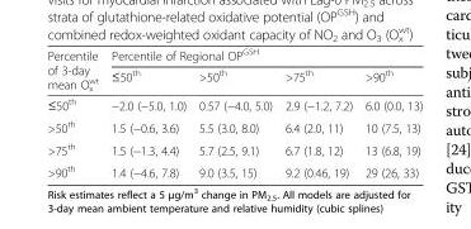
<table><thead><tr><td rowspan="2">Percentile of 3-day mean O<sub>x</sub> <sup>wt</sup></td><td colspan="4">Percentile of Regional OP<sup>GSH</sup></td></tr><tr><td>≤50<sup>th</sup></td><td>&gt;50<sup>th</sup></td><td>&gt;75<sup>th</sup></td><td>&gt;90<sup>th</sup></td></tr></thead><tbody><tr><td>≤50<sup>th</sup></td><td>−2.0 (−5.0, 1.0)</td><td>0.57 (−4.0, 5.0)</td><td>2.9 (−1.2, 7.2)</td><td>6.0 (0.0, 13)</td></tr><tr><td>&gt;50<sup>th</sup></td><td>1.5 (−0.6, 3.6)</td><td>5.5 (3.0, 8.0)</td><td>6.4 (2.0, 11)</td><td>10 (7.5, 13)</td></tr><tr><td>&gt;75<sup>th</sup></td><td>1.5 (−1.3, 4.4)</td><td>5.7 (2.5, 9.1)</td><td>6.7 (1.8, 12)</td><td>13 (6.8, 19)</td></tr><tr><td>&gt;90<sup>th</sup></td><td>1.4 (−4.6, 7.8)</td><td>9.0 (3.5, 15)</td><td>9.2 (0.46, 19)</td><td>29 (26, 33)</td></tr></tbody></table>